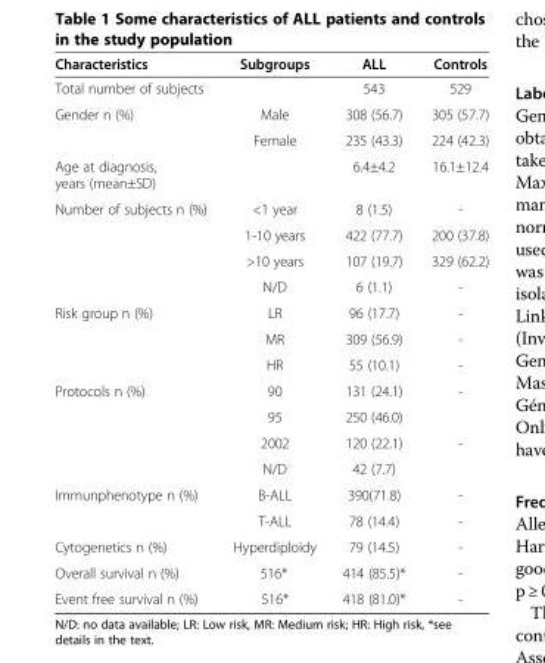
<table><thead><tr><td>Characteristics</td><td>Subgroups</td><td>ALL</td><td>Controls</td></tr></thead><tbody><tr><td>Total number of subjects</td><td></td><td>543</td><td>529</td></tr><tr><td rowspan="2">Gender n (%)</td><td>Male</td><td>308 (56.7)</td><td>305 (57.7)</td></tr><tr><td>Female</td><td>235 (43.3)</td><td>224 (42.3)</td></tr><tr><td>Age at diagnosis, years (mean±SD)</td><td></td><td>6.4±4.2</td><td>16.1±12.4</td></tr><tr><td rowspan="4">Number of subjects n (%)</td><td>&lt;1 year</td><td>8 (1.5)</td><td>-</td></tr><tr><td>1-10 years</td><td>422 (77.7)</td><td>200 (37.8)</td></tr><tr><td>&gt;10 years</td><td>107 (19.7)</td><td>329 (62.2)</td></tr><tr><td>N/D</td><td>6 (1.1)</td><td>-</td></tr><tr><td rowspan="3">Risk group n (%)</td><td>LR</td><td>96 (17.7)</td><td>-</td></tr><tr><td>MR</td><td>309 (56.9)</td><td>-</td></tr><tr><td>HR</td><td>55 (10.1)</td><td>-</td></tr><tr><td rowspan="4">Protocols n (%)</td><td>90</td><td>131 (24.1)</td><td>-</td></tr><tr><td>95</td><td>250 (46.0)</td><td></td></tr><tr><td>2002</td><td>120 (22.1)</td><td>-</td></tr><tr><td>N/D</td><td>42 (7.7)</td><td></td></tr><tr><td rowspan="2">Immunphenotype n (%)</td><td>B-ALL</td><td>390(71.8)</td><td>-</td></tr><tr><td>T-ALL</td><td>78 (14.4)</td><td>-</td></tr><tr><td>Cytogenetics n (%)</td><td>Hyperdiploidy</td><td>79 (14.5)</td><td>-</td></tr><tr><td>Overall survival n (%)</td><td>516*</td><td>414 (85.5)*</td><td>-</td></tr><tr><td>Event free survival n (%)</td><td>516*</td><td>418 (81.0)*</td><td>-</td></tr></tbody></table>